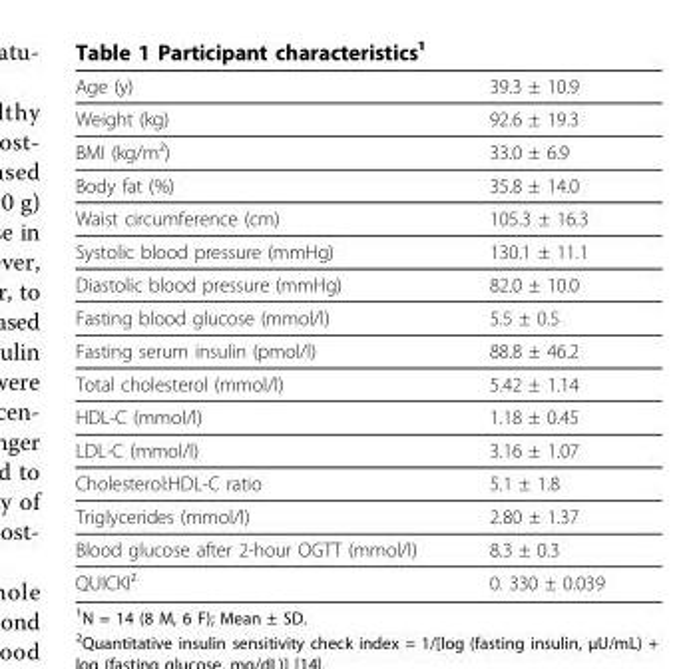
<table><thead><tr><td>Age (y)</td><td>39.3 ± 10.9</td></tr></thead><tbody><tr><td>Weight (kg)</td><td>92.6 ± 19.3</td></tr><tr><td>BMI (kg/m²)</td><td>33.0 ± 6.9</td></tr><tr><td>Body fat (%)</td><td>35.8 ± 14.0</td></tr><tr><td>Waist circumference (cm)</td><td>105.3 ± 16.3</td></tr><tr><td>Systolic blood pressure (mmHg)</td><td>130.1 ± 11.1</td></tr><tr><td>Diastolic blood pressure (mmHg)</td><td>82.0 ± 10.0</td></tr><tr><td>Fasting blood glucose (mmol/l)</td><td>5.5 ± 0.5</td></tr><tr><td>Fasting serum insulin (pmol/l)</td><td>88.8 ± 46.2</td></tr><tr><td>Total cholesterol (mmol/l)</td><td>5.42 ± 1.14</td></tr><tr><td>HDL-C (mmol/l)</td><td>1.18 ± 0.45</td></tr><tr><td>LDL-C (mmol/l)</td><td>3.16 ± 1.07</td></tr><tr><td>Cholesterol:HDL-C ratio</td><td>5.1 ± 1.8</td></tr><tr><td>Triglycerides (mmol/l)</td><td>2.80 ± 1.37</td></tr><tr><td>Blood glucose after 2-hour OGTT (mmol/l)</td><td>8.3 ± 0.3</td></tr><tr><td>QUICKI²</td><td>0. 330 ± 0.039</td></tr></tbody></table>